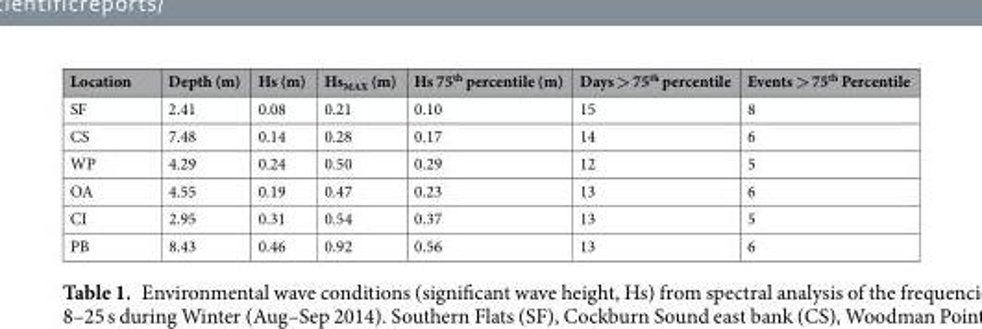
<table><thead><tr><td>Location</td><td>Depth (m)</td><td>Hs (m)</td><td>Hs<sub>MAX</sub> (m)</td><td>Hs 75<sup>th</sup> percentile (m)</td><td>Days &gt; 75<sup>th</sup> percentile</td><td>Events &gt; 75<sup>th</sup> Percentile</td></tr></thead><tbody><tr><td>SF</td><td>2.41</td><td>0.08</td><td>0.21</td><td>0.10</td><td>15</td><td>8</td></tr><tr><td>CS</td><td>7.48</td><td>0.14</td><td>0.28</td><td>0.17</td><td>14</td><td>6</td></tr><tr><td>WP</td><td>4.29</td><td>0.24</td><td>0.50</td><td>0.29</td><td>12</td><td>5</td></tr><tr><td>OA</td><td>4.55</td><td>0.19</td><td>0.47</td><td>0.23</td><td>13</td><td>6</td></tr><tr><td>CI</td><td>2.95</td><td>0.31</td><td>0.54</td><td>0.37</td><td>13</td><td>5</td></tr><tr><td>PB</td><td>8.43</td><td>0.46</td><td>0.92</td><td>0.56</td><td>13</td><td>6</td></tr></tbody></table>